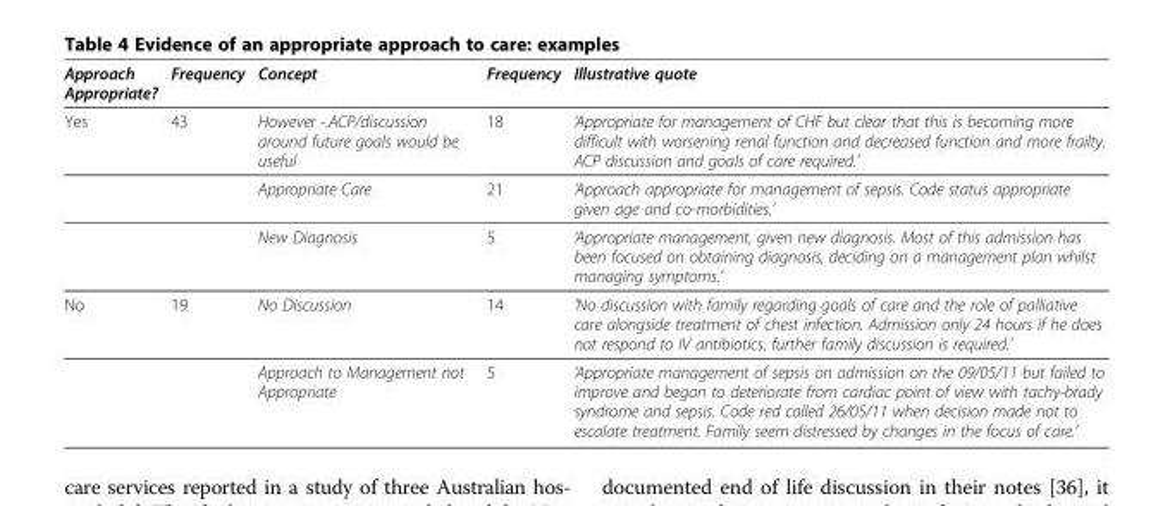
<table><thead><tr><td>Approach Appropriate?</td><td>Frequency</td><td>Concept</td><td>Frequency</td><td>Illustrative quote</td></tr></thead><tbody><tr><td rowspan="3">Yes</td><td>43</td><td>However -.ACP/discussion around future goals would be useful</td><td>18</td><td>‘Appropriate for management of CHF but clear that this is becoming more difficult with worsening renal function and decreased function and more frailty. ACP discussion and goals of care required.’</td></tr><tr><td></td><td>Appropriate Care</td><td>21</td><td>‘Approach appropriate for management of sepsis. Code status appropriate given age and co-morbidities.’</td></tr><tr><td></td><td>New Diagnosis</td><td>5</td><td>‘Appropriate management, given new diagnosis. Most of this admission has been focused on obtaining diagnosis, deciding on a management plan whilst managing symptoms.’</td></tr><tr><td rowspan="2">No</td><td>19</td><td>No Discussion</td><td>14</td><td>‘No discussion with family regarding goals of care and the role of palliative care alongside treatment of chest infection. Admission only 24 hours if he does not respond to IV antibiotics, further family discussion is required.’</td></tr><tr><td></td><td>Approach to Management not Appropriate</td><td>5</td><td>‘Appropriate management of sepsis on admission on the 09/05/11 but failed to improve and began to deteriorate from cardiac point of view with tachy-brady syndrome and sepsis. Code red called 26/05/11 when decision made not to escalate treatment. Family seem distressed by changes in the focus of care.’</td></tr></tbody></table>